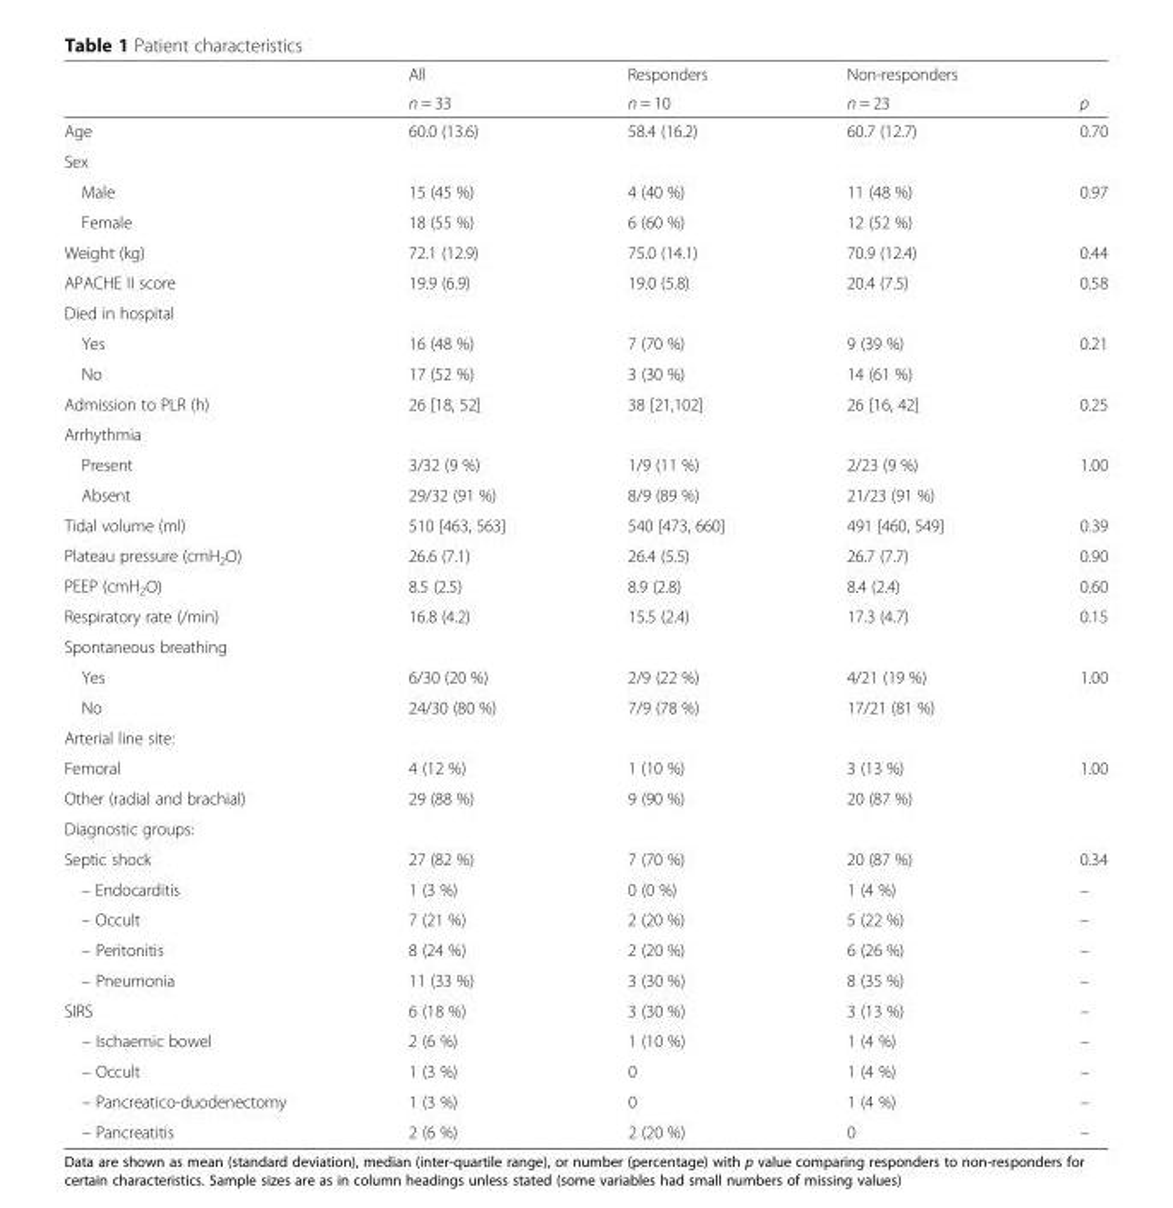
<table><thead><tr><td rowspan="2"></td><td rowspan="2">All n = 33</td><td rowspan="2">Responders n = 10</td><td rowspan="2">Non-responders n = 23</td><td rowspan="2">p</td></tr><tr></tr></thead><tbody><tr><td>Age</td><td>60.0 (13.6)</td><td>58.4 (16.2)</td><td>60.7 (12.7)</td><td>0.70</td></tr><tr><td colspan="5">Sex</td></tr><tr><td>Male</td><td>15 (45 %)</td><td>4 (40 %)</td><td>11 (48 %)</td><td>0.97</td></tr><tr><td>Female</td><td>18 (55 %)</td><td>6 (60 %)</td><td>12 (52 %)</td><td></td></tr><tr><td>Weight (kg)</td><td>72.1 (12.9)</td><td>75.0 (14.1)</td><td>70.9 (12.4)</td><td>0.44</td></tr><tr><td>APACHE II score</td><td>19.9 (6.9)</td><td>19.0 (5.8)</td><td>20.4 (7.5)</td><td>0.58</td></tr><tr><td colspan="5">Died in hospital</td></tr><tr><td>Yes</td><td>16 (48 %)</td><td>7 (70 %)</td><td>9 (39 %)</td><td>0.21</td></tr><tr><td>No</td><td>17 (52 %)</td><td>3 (30 %)</td><td>14 (61 %)</td><td></td></tr><tr><td>Admission to PLR (h)</td><td>26 [18, 52]</td><td>38 [21,102]</td><td>26 [16, 42]</td><td>0.25</td></tr><tr><td colspan="5">Arrhythmia</td></tr><tr><td>Present</td><td>3/32 (9 %)</td><td>1/9 (11 %)</td><td>2/23 (9 %)</td><td>1.00</td></tr><tr><td>Absent</td><td>29/32 (91 %)</td><td>8/9 (89 %)</td><td>21/23 (91 %)</td><td></td></tr><tr><td>Tidal volume (ml)</td><td>510 [463, 563]</td><td>540 [473, 660]</td><td>491 [460, 549]</td><td>0.39</td></tr><tr><td>Plateau pressure (cmH<sub>2</sub>O)</td><td>26.6 (7.1)</td><td>26.4 (5.5)</td><td>26.7 (7.7)</td><td>0.90</td></tr><tr><td>PEEP (cmH<sub>2</sub>O)</td><td>8.5 (2.5)</td><td>8.9 (2.8)</td><td>8.4 (2.4)</td><td>0.60</td></tr><tr><td>Respiratory rate (/min)</td><td>16.8 (4.2)</td><td>15.5 (2.4)</td><td>17.3 (4.7)</td><td>0.15</td></tr><tr><td colspan="5">Spontaneous breathing</td></tr><tr><td>Yes</td><td>6/30 (20 %)</td><td>2/9 (22 %)</td><td>4/21 (19 %)</td><td>1.00</td></tr><tr><td>No</td><td>24/30 (80 %)</td><td>7/9 (78 %)</td><td>17/21 (81 %)</td><td></td></tr><tr><td colspan="5">Arterial line site:</td></tr><tr><td>Femoral</td><td>4 (12 %)</td><td>1 (10 %)</td><td>3 (13 %)</td><td>1.00</td></tr><tr><td>Other (radial and brachial)</td><td>29 (88 %)</td><td>9 (90 %)</td><td>20 (87 %)</td><td></td></tr><tr><td colspan="5">Diagnostic groups:</td></tr><tr><td>Septic shock</td><td>27 (82 %)</td><td>7 (70 %)</td><td>20 (87 %)</td><td>0.34</td></tr><tr><td>– Endocarditis</td><td>1 (3 %)</td><td>0 (0 %)</td><td>1 (4 %)</td><td>–</td></tr><tr><td>– Occult</td><td>7 (21 %)</td><td>2 (20 %)</td><td>5 (22 %)</td><td>–</td></tr><tr><td>– Peritonitis</td><td>8 (24 %)</td><td>2 (20 %)</td><td>6 (26 %)</td><td>–</td></tr><tr><td>– Pneumonia</td><td>11 (33 %)</td><td>3 (30 %)</td><td>8 (35 %)</td><td>–</td></tr><tr><td>SIRS</td><td>6 (18 %)</td><td>3 (30 %)</td><td>3 (13 %)</td><td>–</td></tr><tr><td>– Ischaemic bowel</td><td>2 (6 %)</td><td>1 (10 %)</td><td>1 (4 %)</td><td>–</td></tr><tr><td>– Occult</td><td>1 (3 %)</td><td>0</td><td>1 (4 %)</td><td>–</td></tr><tr><td>– Pancreatico-duodenectomy</td><td>1 (3 %)</td><td>0</td><td>1 (4 %)</td><td>–</td></tr><tr><td>– Pancreatitis</td><td>2 (6 %)</td><td>2 (20 %)</td><td>0</td><td>–</td></tr></tbody></table>